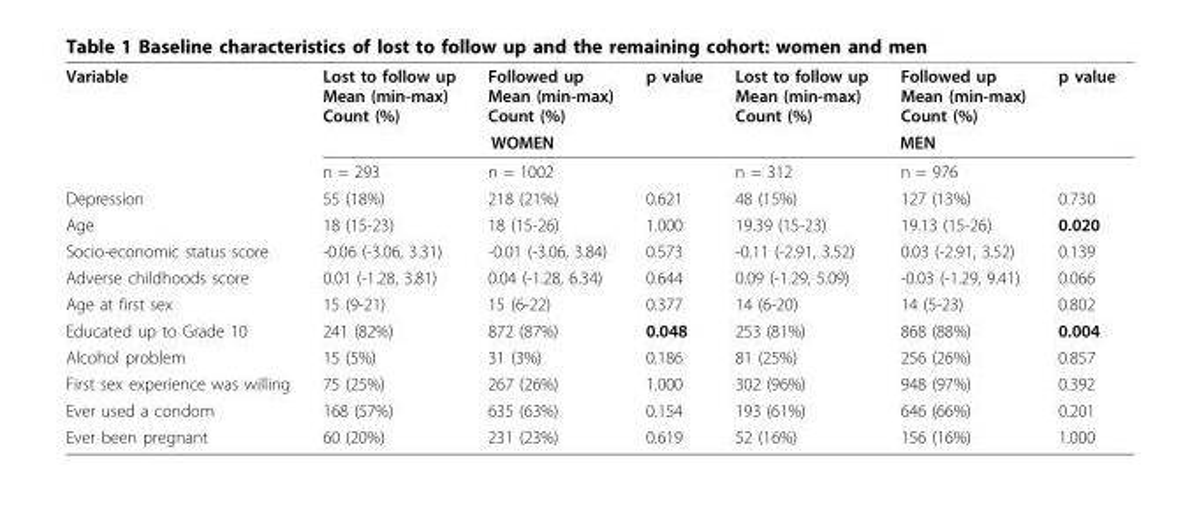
<table><tbody><tr><td rowspan="3">Variable</td><td>Lost to follow up Mean (min-max) Count (%)</td><td>Followed up Mean (min-max) Count (%)</td><td>p value</td><td>Lost to follow up Mean (min-max) Count (%)</td><td>Followed up Mean (min-max) Count (%)</td><td>p value</td></tr><tr><td colspan="3">WOMEN</td><td colspan="3">MEN</td></tr><tr><td>n = 293</td><td>n = 1002</td><td></td><td>n = 312</td><td>n = 976</td><td></td></tr><tr><td>Depression</td><td>55 (18%)</td><td>218 (21%)</td><td>0.621</td><td>48 (15%)</td><td>127 (13%)</td><td>0.730</td></tr><tr><td>Age</td><td>18 (15-23)</td><td>18 (15-26)</td><td>1.000</td><td>19.39 (15-23)</td><td>19.13 (15-26)</td><td>0.020</td></tr><tr><td>Socio-economic status score</td><td>-0.06 (-3.06, 3.31)</td><td>-0.01 (-3.06, 3.84)</td><td>0.573</td><td>-0.11 (-2.91, 3.52)</td><td>0.03 (-2.91, 3.52)</td><td>0.139</td></tr><tr><td>Adverse childhoods score</td><td>0.01 (-1.28, 3.81)</td><td>0.04 (-1.28, 6.34)</td><td>0.644</td><td>0.09 (-1.29, 5.09)</td><td>-0.03 (-1.29, 9.41)</td><td>0.066</td></tr><tr><td>Age at first sex</td><td>15 (9-21)</td><td>15 (6-22)</td><td>0.377</td><td>14 (6-20)</td><td>14 (5-23)</td><td>0.802</td></tr><tr><td>Educated up to Grade 10</td><td>241 (82%)</td><td>872 (87%)</td><td>0.048</td><td>253 (81%)</td><td>868 (88%)</td><td>0.004</td></tr><tr><td>Alcohol problem</td><td>15 (5%)</td><td>31 (3%)</td><td>0.186</td><td>81 (25%)</td><td>256 (26%)</td><td>0.857</td></tr><tr><td>First sex experience was willing</td><td>75 (25%)</td><td>267 (26%)</td><td>1.000</td><td>302 (96%)</td><td>948 (97%)</td><td>0.392</td></tr><tr><td>Ever used a condom</td><td>168 (57%)</td><td>635 (63%)</td><td>0.154</td><td>193 (61%)</td><td>646 (66%)</td><td>0.201</td></tr><tr><td>Ever been pregnant</td><td>60 (20%)</td><td>231 (23%)</td><td>0.619</td><td>52 (16%)</td><td>156 (16%)</td><td>1.000</td></tr></tbody></table>